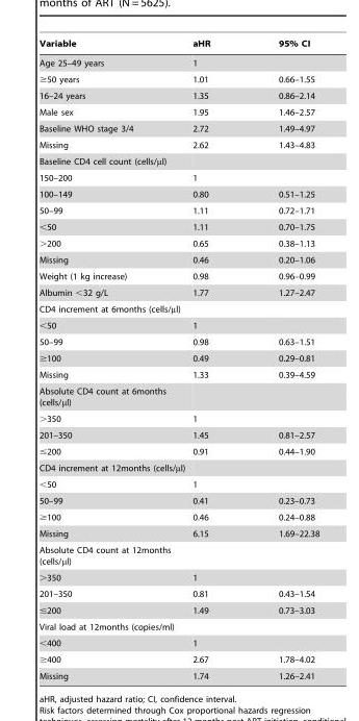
<table><thead><tr><td>Variable</td><td>aHR</td><td>95% CI</td></tr></thead><tbody><tr><td>Age 25–49 years</td><td>1</td><td></td></tr><tr><td>≥50 years</td><td>1.01</td><td>0.66–1.55</td></tr><tr><td>16–24 years</td><td>1.35</td><td>0.86–2.14</td></tr><tr><td>Male sex</td><td>1.95</td><td>1.46–2.57</td></tr><tr><td>Baseline WHO stage 3/4</td><td>2.72</td><td>1.49–4.97</td></tr><tr><td>Missing</td><td>2.62</td><td>1.43–4.83</td></tr><tr><td colspan="3">Baseline CD4 cell count (cells/µl)</td></tr><tr><td>150–200</td><td>1</td><td></td></tr><tr><td>100–149</td><td>0.80</td><td>0.51–1.25</td></tr><tr><td>50–99</td><td>1.11</td><td>0.72–1.71</td></tr><tr><td>&lt;50</td><td>1.11</td><td>0.70–1.75</td></tr><tr><td>&gt;200</td><td>0.65</td><td>0.38–1.13</td></tr><tr><td>Missing</td><td>0.46</td><td>0.20–1.06</td></tr><tr><td>Weight (1 kg increase)</td><td>0.98</td><td>0.96–0.99</td></tr><tr><td>Albumin &lt;32 g/L</td><td>1.77</td><td>1.27–2.47</td></tr><tr><td colspan="3">CD4 increment at 6months (cells/µl)</td></tr><tr><td>&lt;50</td><td>1</td><td></td></tr><tr><td>50–99</td><td>0.98</td><td>0.63–1.51</td></tr><tr><td>≥100</td><td>0.49</td><td>0.29–0.81</td></tr><tr><td>Missing</td><td>1.33</td><td>0.39–4.59</td></tr><tr><td colspan="3">Absolute CD4 count at 6months (cells/μl)</td></tr><tr><td>&gt;350</td><td>1</td><td></td></tr><tr><td>201–350</td><td>1.45</td><td>0.81–2.57</td></tr><tr><td>≤200</td><td>0.91</td><td>0.44–1.90</td></tr><tr><td colspan="3">CD4 increment at 12months (cells/µl)</td></tr><tr><td>&lt;50</td><td>1</td><td></td></tr><tr><td>50–99</td><td>0.41</td><td>0.23–0.73</td></tr><tr><td>≥100</td><td>0.46</td><td>0.24–0.88</td></tr><tr><td>Missing</td><td>6.15</td><td>1.69–22.38</td></tr><tr><td colspan="3">Absolute CD4 count at 12months (cells/μl)</td></tr><tr><td>&gt;350</td><td>1</td><td></td></tr><tr><td>201–350</td><td>0.81</td><td>0.43–1.54</td></tr><tr><td>≤200</td><td>1.49</td><td>0.73–3.03</td></tr><tr><td colspan="3">Viral load at 12months (copies/ml)</td></tr><tr><td>&lt;400</td><td>1</td><td></td></tr><tr><td>≥400</td><td>2.67</td><td>1.78–4.02</td></tr><tr><td>Missing</td><td>1.74</td><td>1.26–2.41</td></tr></tbody></table>